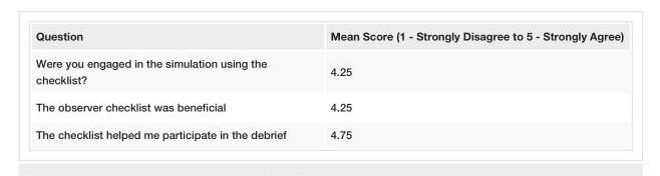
<table><tbody><tr><td>Question</td><td>Mean Score (1 - Strongly Disagree to 5 - Strongly Agree)</td></tr><tr><td>Were you engaged in the simulation using the checklist?</td><td>4.25</td></tr><tr><td>The observer checklist was beneficial</td><td>4.25</td></tr><tr><td>The checklist helped me participate in the debrief</td><td>4.75</td></tr></tbody></table>